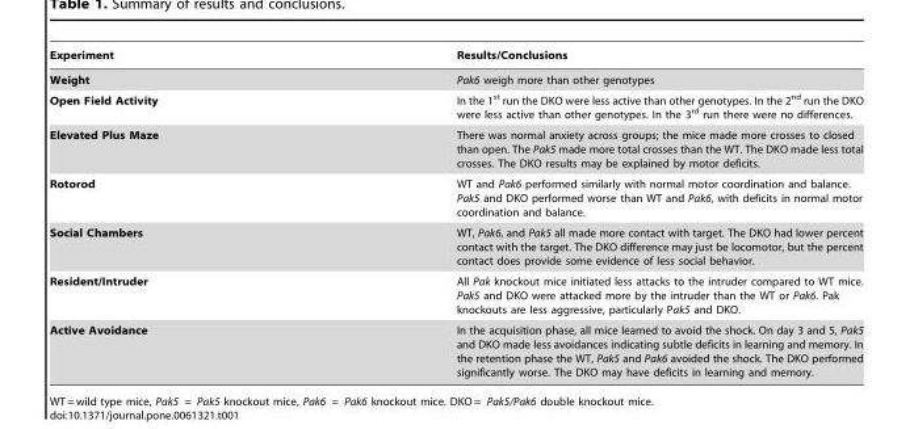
<table><thead><tr><td>Experiment</td><td>Results/Conclusions</td></tr></thead><tbody><tr><td>Weight</td><td>Pak6 weigh more than other genotypes</td></tr><tr><td>Open Field Activity</td><td>In the 1<sup>st</sup> run the DKO were less active than other genotypes. In the 2<sup>nd</sup> run the DKO were less active than other genotypes. In the 3<sup>rd</sup> run there were no differences.</td></tr><tr><td>Elevated Plus Maze</td><td>There was normal anxiety across groups; the mice made more crosses to closed than open. The Pak5 made more total crosses than the WT. The DKO made less total crosses. The DKO results may be explained by motor deficits.</td></tr><tr><td>Rotorod</td><td>WT and Pak6 performed similarly with normal motor coordination and balance. Pak5 and DKO performed worse than WT and Pak6, with deficits in normal motor coordination and balance.</td></tr><tr><td>Social Chambers</td><td>WT, Pak6, and Pak5 all made more contact with target. The DKO had lower percent contact with the target. The DKO difference may just be locomotor, but the percent contact does provide some evidence of less social behavior.</td></tr><tr><td>Resident/Intruder</td><td>All Pak knockout mice initiated less attacks to the intruder compared to WT mice. Pak5 and DKO were attacked more by the intruder than the WT or Pak6. Pak knockouts are less aggressive, particularly Pak5 and DKO.</td></tr><tr><td>Active Avoidance</td><td>In the acquisition phase, all mice learned to avoid the shock. On day 3 and 5, Pak5 and DKO made less avoidances indicating subtle deficits in learning and memory. In the retention phase the WT, Pak5 and Pak6 avoided the shock. The DKO performed significantly worse. The DKO may have deficits in learning and memory.</td></tr></tbody></table>